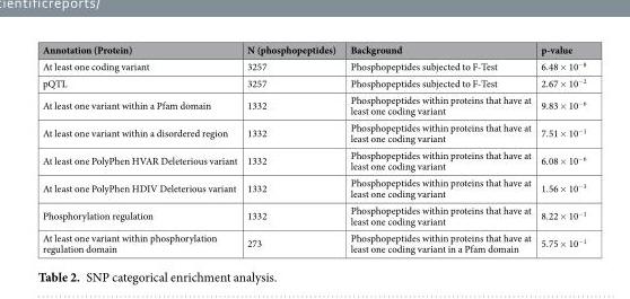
<table><thead><tr><td>Annotation (Protein)</td><td>N (phosphopeptides)</td><td>Background</td><td>p-value</td></tr></thead><tbody><tr><td>At least one coding variant</td><td>3257</td><td>Phosphopeptides subjected to F-Test</td><td>6.48 × 10<sup>−8</sup></td></tr><tr><td>pQTL</td><td>3257</td><td>Phosphopeptides subjected to F-Test</td><td>2.67 × 10<sup>−2</sup></td></tr><tr><td>At least one variant within a Pfam domain</td><td>1332</td><td>Phosphopeptides within proteins that have at least one coding variant</td><td>9.83 × 10<sup>−6</sup></td></tr><tr><td>At least one variant within a disordered region</td><td>1332</td><td>Phosphopeptides within proteins that have at least one coding variant</td><td>7.51 × 10<sup>−1</sup></td></tr><tr><td>At least one PolyPhen HVAR Deleterious variant</td><td>1332</td><td>Phosphopeptides within proteins that have at least one coding variant</td><td>6.08 × 10<sup>−6</sup></td></tr><tr><td>At least one PolyPhen HDIV Deleterious variant</td><td>1332</td><td>Phosphopeptides within proteins that have at least one coding variant</td><td>1.56 × 10<sup>−3</sup></td></tr><tr><td>Phosphorylation regulation</td><td>1332</td><td>Phosphopeptides within proteins that have at least one coding variant</td><td>8.22 × 10<sup>−1</sup></td></tr><tr><td>At least one variant within phosphorylation regulation domain</td><td>273</td><td>Phosphopeptides within proteins that have at least one coding variant in a Pfam domain</td><td>5.75 × 10<sup>−1</sup></td></tr></tbody></table>